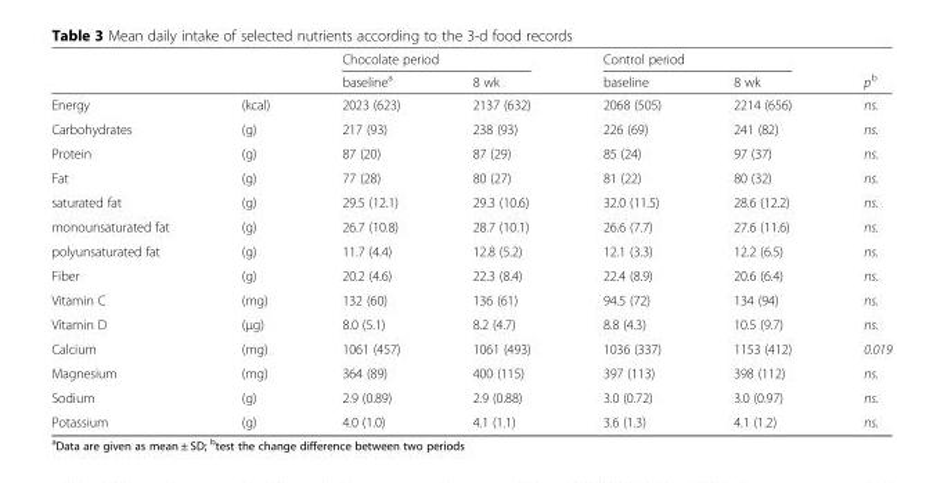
<table><thead><tr><td rowspan="2"></td><td rowspan="2"></td><td colspan="2">Chocolate period</td><td colspan="2">Control period</td><td rowspan="2">p<sup>b</sup></td></tr><tr><td>baseline<sup>a</sup></td><td>8 wk</td><td>baseline</td><td>8 wk</td></tr></thead><tbody><tr><td>Energy</td><td>(kcal)</td><td>2023 (623)</td><td>2137 (632)</td><td>2068 (505)</td><td>2214 (656)</td><td>ns.</td></tr><tr><td>Carbohydrates</td><td>(g)</td><td>217 (93)</td><td>238 (93)</td><td>226 (69)</td><td>241 (82)</td><td>ns.</td></tr><tr><td>Protein</td><td>(g)</td><td>87 (20)</td><td>87 (29)</td><td>85 (24)</td><td>97 (37)</td><td>ns.</td></tr><tr><td>Fat</td><td>(g)</td><td>77 (28)</td><td>80 (27)</td><td>81 (22)</td><td>80 (32)</td><td>ns.</td></tr><tr><td>saturated fat</td><td>(g)</td><td>29.5 (12.1)</td><td>29.3 (10.6)</td><td>32.0 (11.5)</td><td>28.6 (12.2)</td><td>ns.</td></tr><tr><td>monounsaturated fat</td><td>(g)</td><td>26.7 (10.8)</td><td>28.7 (10.1)</td><td>26.6 (7.7)</td><td>27.6 (11.6)</td><td>ns.</td></tr><tr><td>polyunsaturated fat</td><td>(g)</td><td>11.7 (4.4)</td><td>12.8 (5.2)</td><td>12.1 (3.3)</td><td>12.2 (6.5)</td><td>ns.</td></tr><tr><td>Fiber</td><td>(g)</td><td>20.2 (4.6)</td><td>22.3 (8.4)</td><td>22.4 (8.9)</td><td>20.6 (6.4)</td><td>ns.</td></tr><tr><td>Vitamin C</td><td>(mg)</td><td>132 (60)</td><td>136 (61)</td><td>94.5 (72)</td><td>134 (94)</td><td>ns.</td></tr><tr><td>Vitamin D</td><td>(μg)</td><td>8.0 (5.1)</td><td>8.2 (4.7)</td><td>8.8 (4.3)</td><td>10.5 (9.7)</td><td>ns.</td></tr><tr><td>Calcium</td><td>(mg)</td><td>1061 (457)</td><td>1061 (493)</td><td>1036 (337)</td><td>1153 (412)</td><td>0.019</td></tr><tr><td>Magnesium</td><td>(mg)</td><td>364 (89)</td><td>400 (115)</td><td>397 (113)</td><td>398 (112)</td><td>ns.</td></tr><tr><td>Sodium</td><td>(g)</td><td>2.9 (0.89)</td><td>2.9 (0.88)</td><td>3.0 (0.72)</td><td>3.0 (0.97)</td><td>ns.</td></tr><tr><td>Potassium</td><td>(g)</td><td>4.0 (1.0)</td><td>4.1 (1.1)</td><td>3.6 (1.3)</td><td>4.1 (1.2)</td><td>ns.</td></tr></tbody></table>